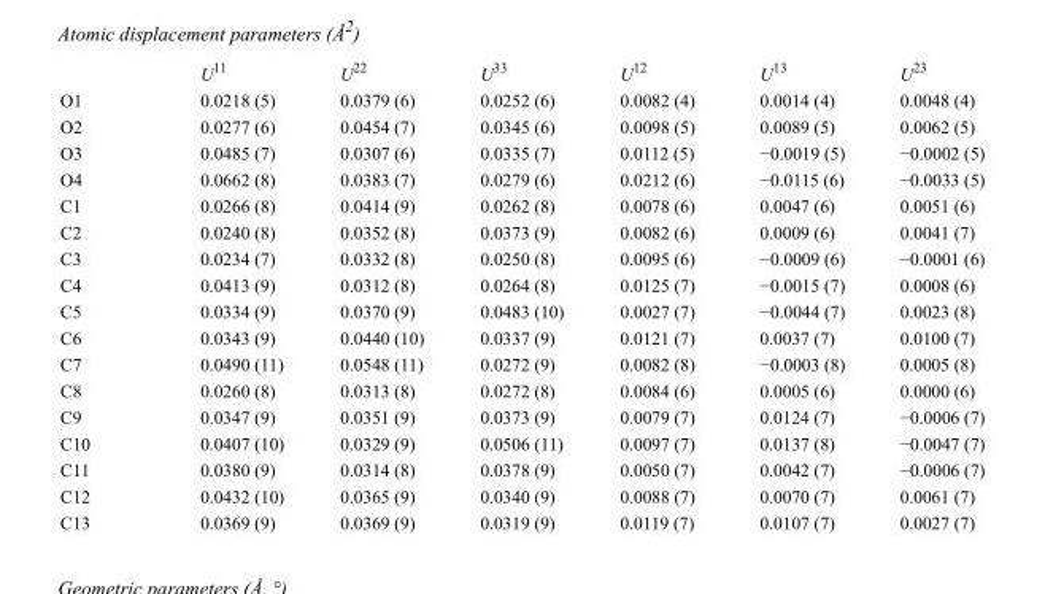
<table><thead><tr><td></td><td>U<sup>11</sup></td><td>U<sup>22</sup></td><td>U<sup>33</sup></td><td>U<sup>12</sup></td><td>U<sup>13</sup></td><td>U<sup>23</sup></td></tr></thead><tbody><tr><td>O1</td><td>0.0218 (5)</td><td>0.0379 (6)</td><td>0.0252 (6)</td><td>0.0082 (4)</td><td>0.0014 (4)</td><td>0.0048 (4)</td></tr><tr><td>O2</td><td>0.0277 (6)</td><td>0.0454 (7)</td><td>0.0345 (6)</td><td>0.0098 (5)</td><td>0.0089 (5)</td><td>0.0062 (5)</td></tr><tr><td>O3</td><td>0.0485 (7)</td><td>0.0307 (6)</td><td>0.0335 (7)</td><td>0.0112 (5)</td><td>−0.0019 (5)</td><td>−0.0002 (5)</td></tr><tr><td>O4</td><td>0.0662 (8)</td><td>0.0383 (7)</td><td>0.0279 (6)</td><td>0.0212 (6)</td><td>−0.0115 (6)</td><td>−0.0033 (5)</td></tr><tr><td>C1</td><td>0.0266 (8)</td><td>0.0414 (9)</td><td>0.0262 (8)</td><td>0.0078 (6)</td><td>0.0047 (6)</td><td>0.0051 (6)</td></tr><tr><td>C2</td><td>0.0240 (8)</td><td>0.0352 (8)</td><td>0.0373 (9)</td><td>0.0082 (6)</td><td>0.0009 (6)</td><td>0.0041 (7)</td></tr><tr><td>C3</td><td>0.0234 (7)</td><td>0.0332 (8)</td><td>0.0250 (8)</td><td>0.0095 (6)</td><td>−0.0009 (6)</td><td>−0.0001 (6)</td></tr><tr><td>C4</td><td>0.0413 (9)</td><td>0.0312 (8)</td><td>0.0264 (8)</td><td>0.0125 (7)</td><td>−0.0015 (7)</td><td>0.0008 (6)</td></tr><tr><td>C5</td><td>0.0334 (9)</td><td>0.0370 (9)</td><td>0.0483 (10)</td><td>0.0027 (7)</td><td>−0.0044 (7)</td><td>0.0023 (8)</td></tr><tr><td>C6</td><td>0.0343 (9)</td><td>0.0440 (10)</td><td>0.0337 (9)</td><td>0.0121 (7)</td><td>0.0037 (7)</td><td>0.0100 (7)</td></tr><tr><td>C7</td><td>0.0490 (11)</td><td>0.0548 (11)</td><td>0.0272 (9)</td><td>0.0082 (8)</td><td>−0.0003 (8)</td><td>0.0005 (8)</td></tr><tr><td>C8</td><td>0.0260 (8)</td><td>0.0313 (8)</td><td>0.0272 (8)</td><td>0.0084 (6)</td><td>0.0005 (6)</td><td>0.0000 (6)</td></tr><tr><td>C9</td><td>0.0347 (9)</td><td>0.0351 (9)</td><td>0.0373 (9)</td><td>0.0079 (7)</td><td>0.0124 (7)</td><td>−0.0006 (7)</td></tr><tr><td>C10</td><td>0.0407 (10)</td><td>0.0329 (9)</td><td>0.0506 (11)</td><td>0.0097 (7)</td><td>0.0137 (8)</td><td>−0.0047 (7)</td></tr><tr><td>C11</td><td>0.0380 (9)</td><td>0.0314 (8)</td><td>0.0378 (9)</td><td>0.0050 (7)</td><td>0.0042 (7)</td><td>−0.0006 (7)</td></tr><tr><td>C12</td><td>0.0432 (10)</td><td>0.0365 (9)</td><td>0.0340 (9)</td><td>0.0088 (7)</td><td>0.0070 (7)</td><td>0.0061 (7)</td></tr><tr><td>C13</td><td>0.0369 (9)</td><td>0.0369 (9)</td><td>0.0319 (9)</td><td>0.0119 (7)</td><td>0.0107 (7)</td><td>0.0027 (7)</td></tr></tbody></table>